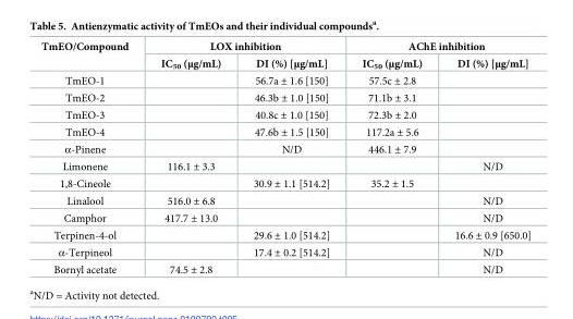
<table><thead><tr><td rowspan="2">TmEO/Compound</td><td colspan="2">LOX inhibition</td><td colspan="2">AChE inhibition</td></tr><tr><td>IC<sub>50</sub> (μg/mL)</td><td>DI (%) [μg/mL]</td><td>IC<sub>50</sub> (μg/mL)</td><td>DI (%) [μg/mL]</td></tr></thead><tbody><tr><td>TmEO-1</td><td></td><td>56.7a ± 1.6 [150]</td><td>57.5c ± 2.8</td><td></td></tr><tr><td>TmEO-2</td><td></td><td>46.3b ± 1.0 [150]</td><td>71.1b ± 3.1</td><td></td></tr><tr><td>TmEO-3</td><td></td><td>40.8c ± 1.0 [150]</td><td>72.3b ± 2.0</td><td></td></tr><tr><td>TmEO-4</td><td></td><td>47.6b ± 1.5 [150]</td><td>117.2a ± 5.6</td><td></td></tr><tr><td>α-Pinene</td><td></td><td>N/D</td><td>446.1 ± 7.9</td><td></td></tr><tr><td>Limonene</td><td>116.1 ± 3.3</td><td></td><td></td><td>N/D</td></tr><tr><td>1,8-Cineole</td><td></td><td>30.9 ± 1.1 [514.2]</td><td>35.2 ± 1.5</td><td></td></tr><tr><td>Linalool</td><td>516.0 ± 6.8</td><td></td><td></td><td>N/D</td></tr><tr><td>Camphor</td><td>417.7 ± 13.0</td><td></td><td></td><td>N/D</td></tr><tr><td>Terpinen-4-ol</td><td></td><td>29.6 ± 1.0 [514.2]</td><td></td><td>16.6 ± 0.9 [650.0]</td></tr><tr><td>α-Terpineol</td><td></td><td>17.4 ± 0.2 [514.2]</td><td></td><td>N/D</td></tr><tr><td>Bornyl acetate</td><td>74.5 ± 2.8</td><td></td><td></td><td>N/D</td></tr></tbody></table>